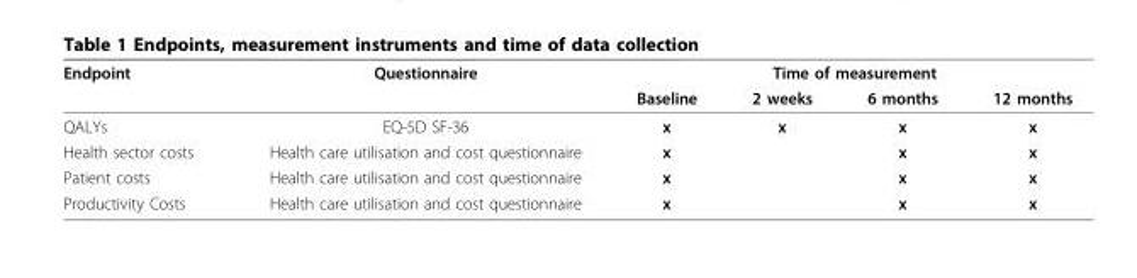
<table><thead><tr><td rowspan="2">Endpoint</td><td rowspan="2">Questionnaire</td><td colspan="4">Time of measurement</td></tr><tr><td>Baseline</td><td>2 weeks</td><td>6 months</td><td>12 months</td></tr></thead><tbody><tr><td>QALYs</td><td>EQ-5D SF-36</td><td>x</td><td>x</td><td>x</td><td>x</td></tr><tr><td>Health sector costs</td><td>Health care utilisation and cost questionnaire</td><td>x</td><td></td><td>x</td><td>x</td></tr><tr><td>Patient costs</td><td>Health care utilisation and cost questionnaire</td><td>x</td><td></td><td>x</td><td>x</td></tr><tr><td>Productivity Costs</td><td>Health care utilisation and cost questionnaire</td><td>x</td><td></td><td>x</td><td>x</td></tr></tbody></table>